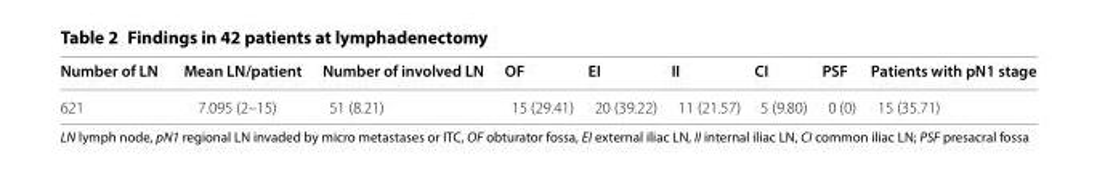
<table><thead><tr><td>Number of LN</td><td>Mean LN/patient</td><td>Number of involved LN</td><td>OF</td><td>EI</td><td>II</td><td>CI</td><td>PSF</td><td>Patients with pN1 stage</td></tr></thead><tbody><tr><td>621</td><td>7.095 (2–15)</td><td>51 (8.21)</td><td>15 (29.41)</td><td>20 (39.22)</td><td>11 (21.57)</td><td>5 (9.80)</td><td>0 (0)</td><td>15 (35.71)</td></tr></tbody></table>